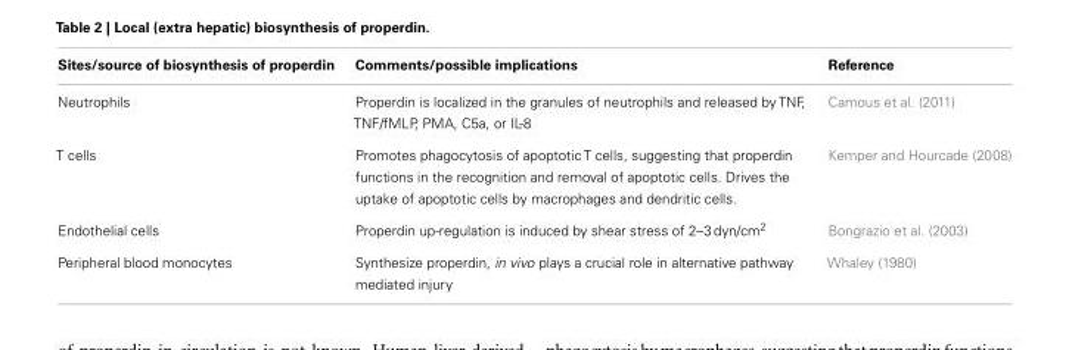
<table><thead><tr><td>Sites/source of biosynthesis of properdin</td><td>Comments/possible implications</td><td>Reference</td></tr></thead><tbody><tr><td>Neutrophils</td><td>Properdin is localized in the granules of neutrophils and released by TNF, TNF/fMLP, PMA, C5a, or IL-8</td><td>Camous et al. (2011)</td></tr><tr><td>T cells</td><td>Promotes phagocytosis of apoptotic T cells, suggesting that properdin functions in the recognition and removal of apoptotic cells. Drives the uptake of apoptotic cells by macrophages and dendritic cells.</td><td>Kemper and Hourcade (2008)</td></tr><tr><td>Endothelial cells</td><td>Properdin up-regulation is induced by shear stress of 2–3 dyn/cm<sup>2</sup></td><td>Bongrazio et al. (2003)</td></tr><tr><td>Peripheral blood monocytes</td><td>Synthesize properdin, in vivo plays a crucial role in alternative pathway mediated injury</td><td>Whaley (1980)</td></tr></tbody></table>